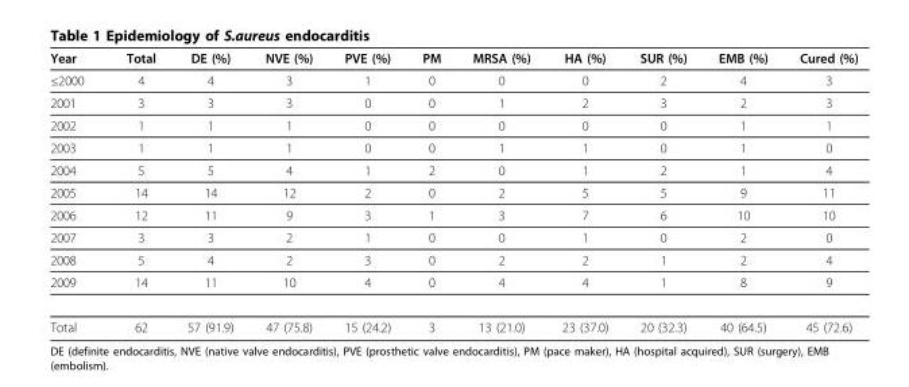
<table><thead><tr><td>Year</td><td>Total</td><td>DE (%)</td><td>NVE (%)</td><td>PVE (%)</td><td>PM</td><td>MRSA (%)</td><td>HA (%)</td><td>SUR (%)</td><td>EMB (%)</td><td>Cured (%)</td></tr></thead><tbody><tr><td>≤2000</td><td>4</td><td>4</td><td>3</td><td>1</td><td>0</td><td>0</td><td>0</td><td>2</td><td>4</td><td>3</td></tr><tr><td>2001</td><td>3</td><td>3</td><td>3</td><td>0</td><td>0</td><td>1</td><td>2</td><td>3</td><td>2</td><td>3</td></tr><tr><td>2002</td><td>1</td><td>1</td><td>1</td><td>0</td><td>0</td><td>0</td><td>0</td><td>0</td><td>1</td><td>1</td></tr><tr><td>2003</td><td>1</td><td>1</td><td>1</td><td>0</td><td>0</td><td>1</td><td>1</td><td>0</td><td>1</td><td>0</td></tr><tr><td>2004</td><td>5</td><td>5</td><td>4</td><td>1</td><td>2</td><td>0</td><td>1</td><td>2</td><td>1</td><td>4</td></tr><tr><td>2005</td><td>14</td><td>14</td><td>12</td><td>2</td><td>0</td><td>2</td><td>5</td><td>5</td><td>9</td><td>11</td></tr><tr><td>2006</td><td>12</td><td>11</td><td>9</td><td>3</td><td>1</td><td>3</td><td>7</td><td>6</td><td>10</td><td>10</td></tr><tr><td>2007</td><td>3</td><td>3</td><td>2</td><td>1</td><td>0</td><td>0</td><td>1</td><td>0</td><td>2</td><td>0</td></tr><tr><td>2008</td><td>5</td><td>4</td><td>2</td><td>3</td><td>0</td><td>2</td><td>2</td><td>1</td><td>2</td><td>4</td></tr><tr><td>2009</td><td>14</td><td>11</td><td>10</td><td>4</td><td>0</td><td>4</td><td>4</td><td>1</td><td>8</td><td>9</td></tr><tr><td>Total</td><td>62</td><td>57 (91.9)</td><td>47 (75.8)</td><td>15 (24.2)</td><td>3</td><td>13 (21.0)</td><td>23 (37.0)</td><td>20 (32.3)</td><td>40 (64.5)</td><td>45 (72.6)</td></tr></tbody></table>